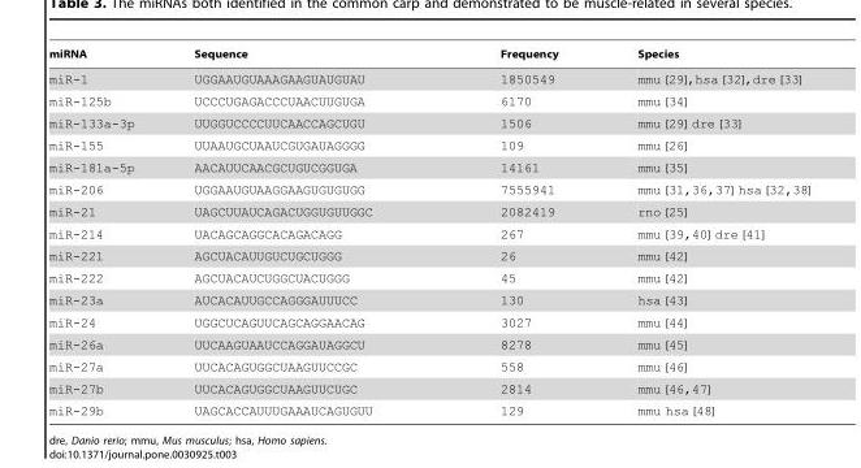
<table><thead><tr><td>miRNA</td><td>Sequence</td><td>Frequency</td><td>Species</td></tr></thead><tbody><tr><td>miR-1</td><td>UGGAAUGUAAAGAAGUAUGUAU</td><td>1850549</td><td>mmu [29],hsa [32],dre [33]</td></tr><tr><td>miR-125b</td><td>UCCCUGAGACCCUAACUUGUGA</td><td>6170</td><td>mmu [34]</td></tr><tr><td>miR-133a-3p</td><td>UUGGUCCCCUUCAACCAGCUGU</td><td>1506</td><td>mmu [29] dre [33]</td></tr><tr><td>miR-155</td><td>UUAAUGCUAAUCGUGAUAGGGG</td><td>109</td><td>mmu [26]</td></tr><tr><td>miR-181a-5p</td><td>AACAUUCAACGCUGUCGGUGA</td><td>14161</td><td>mmu [35]</td></tr><tr><td>miR-206</td><td>UGGAAUGUAAGGAAGUGUGUGG</td><td>7555941</td><td>mmu [31,36,37] hsa [32,38]</td></tr><tr><td>miR-21</td><td>UAGCUUAUCAGACUGGUGUUGGC</td><td>2082419</td><td>rno [25]</td></tr><tr><td>miR-214</td><td>UACAGCAGGCACAGACAGG</td><td>267</td><td>mmu [39,40] dre [41]</td></tr><tr><td>miR-221</td><td>AGCUACAUUGUCUGCUGGG</td><td>26</td><td>mmu [42]</td></tr><tr><td>miR-222</td><td>AGCUACAUCUGGCUACUGGG</td><td>45</td><td>mmu [42]</td></tr><tr><td>miR-23a</td><td>AUCACAUUGCCAGGGAUUUCC</td><td>130</td><td>hsa [43]</td></tr><tr><td>miR-24</td><td>UGGCUCAGUUCAGCAGGAACAG</td><td>3027</td><td>mmu [44]</td></tr><tr><td>miR-26a</td><td>UUCAAGUAAUCCAGGAUAGGCU</td><td>8278</td><td>mmu [45]</td></tr><tr><td>miR-27a</td><td>UUCACAGUGGCUAAGUUCCGC</td><td>558</td><td>mmu [46]</td></tr><tr><td>miR-27b</td><td>UUCACAGUGGCUAAGUUCUGC</td><td>2814</td><td>mmu [46,47]</td></tr><tr><td>miR-29b</td><td>UAGCACCAUUUGAAAUCAGUGUU</td><td>129</td><td>mmu hsa [48]</td></tr></tbody></table>